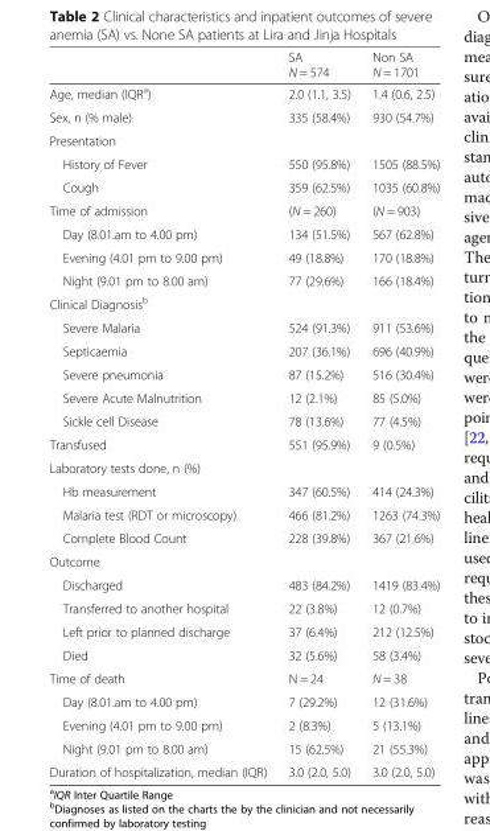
<table><thead><tr><td></td><td>SA N = 574</td><td>Non SA N = 1701</td></tr></thead><tbody><tr><td>Age, median (IQR<sup>a</sup>)</td><td>2.0 (1.1, 3.5)</td><td>1.4 (0.6, 2.5)</td></tr><tr><td>Sex, n (% male)</td><td>335 (58.4%)</td><td>930 (54.7%)</td></tr><tr><td colspan="3">Presentation</td></tr><tr><td>History of Fever</td><td>550 (95.8%)</td><td>1505 (88.5%)</td></tr><tr><td>Cough</td><td>359 (62.5%)</td><td>1035 (60.8%)</td></tr><tr><td>Time of admission</td><td>(N = 260)</td><td>(N = 903)</td></tr><tr><td>Day (8.01.am to 4.00 pm)</td><td>134 (51.5%)</td><td>567 (62.8%)</td></tr><tr><td>Evening (4.01 pm to 9.00 pm)</td><td>49 (18.8%)</td><td>170 (18.8%)</td></tr><tr><td>Night (9.01 pm to 8.00 am)</td><td>77 (29.6%)</td><td>166 (18.4%)</td></tr><tr><td colspan="3">Clinical Diagnosis<sup>b</sup></td></tr><tr><td>Severe Malaria</td><td>524 (91.3%)</td><td>911 (53.6%)</td></tr><tr><td>Septicaemia</td><td>207 (36.1%)</td><td>696 (40.9%)</td></tr><tr><td>Severe pneumonia</td><td>87 (15.2%)</td><td>516 (30.4%)</td></tr><tr><td>Severe Acute Malnutrition</td><td>12 (2.1%)</td><td>85 (5.0%)</td></tr><tr><td>Sickle cell Disease</td><td>78 (13.6%)</td><td>77 (4.5%)</td></tr><tr><td>Transfused</td><td>551 (95.9%)</td><td>9 (0.5%)</td></tr><tr><td colspan="3">Laboratory tests done, n (%)</td></tr><tr><td>Hb measurement</td><td>347 (60.5%)</td><td>414 (24.3%)</td></tr><tr><td>Malaria test (RDT or microscopy)</td><td>466 (81.2%)</td><td>1263 (74.3%)</td></tr><tr><td>Complete Blood Count</td><td>228 (39.8%)</td><td>367 (21.6%)</td></tr><tr><td colspan="3">Outcome</td></tr><tr><td>Discharged</td><td>483 (84.2%)</td><td>1419 (83.4%)</td></tr><tr><td>Transferred to another hospital</td><td>22 (3.8%)</td><td>12 (0.7%)</td></tr><tr><td>Left prior to planned discharge</td><td>37 (6.4%)</td><td>212 (12.5%)</td></tr><tr><td>Died</td><td>32 (5.6%)</td><td>58 (3.4%)</td></tr><tr><td>Time of death</td><td>N = 24</td><td>N = 38</td></tr><tr><td>Day (8.01.am to 4.00 pm)</td><td>7 (29.2%)</td><td>12 (31.6%)</td></tr><tr><td>Evening (4.01 pm to 9.00 pm)</td><td>2 (8.3%)</td><td>5 (13.1%)</td></tr><tr><td>Night (9.01 pm to 8.00 am)</td><td>15 (62.5%)</td><td>21 (55.3%)</td></tr><tr><td>Duration of hospitalization, median (IQR)</td><td>3.0 (2.0, 5.0)</td><td>3.0 (2.0, 5.0)</td></tr></tbody></table>